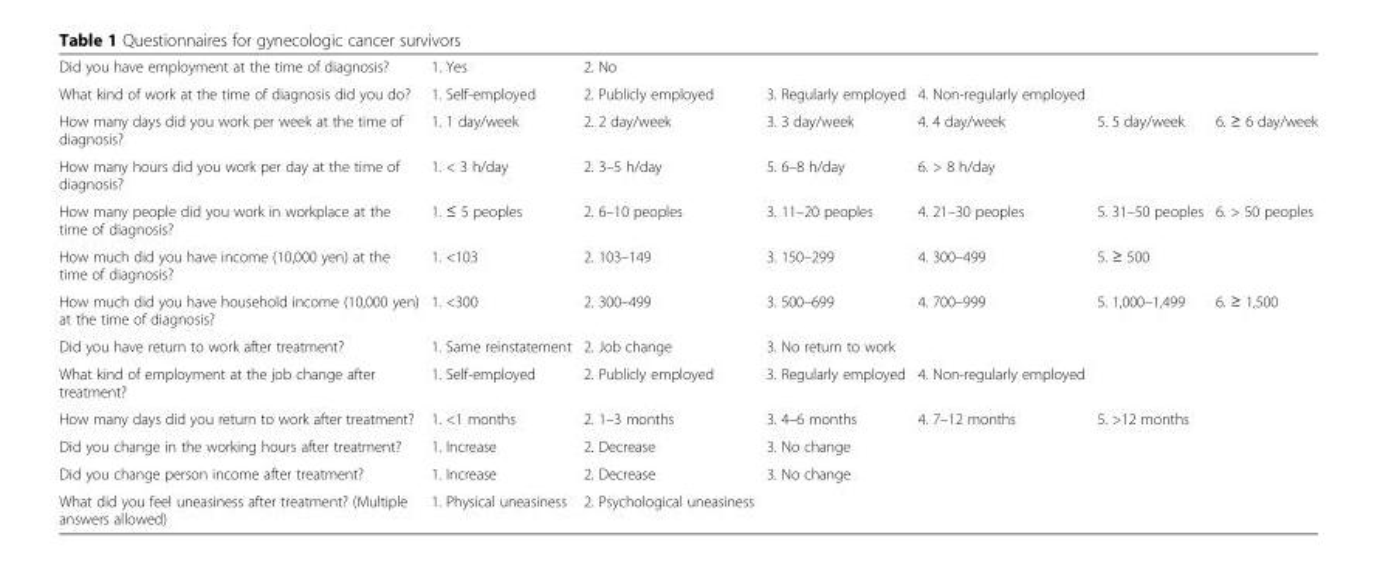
<table><tbody><tr><td>Did you have employment at the time of diagnosis?</td><td>1. Yes</td><td>2. No</td><td></td><td></td><td></td><td></td></tr><tr><td>What kind of work at the time of diagnosis did you do?</td><td>1. Self-employed</td><td>2. Publicly employed</td><td>3. Regularly employed</td><td>4. Non-regularly employed</td><td></td><td></td></tr><tr><td>How many days did you work per week at the time of diagnosis?</td><td>1. 1 day/week</td><td>2. 2 day/week</td><td>3. 3 day/week</td><td>4. 4 day/week</td><td>5. 5 day/week</td><td>6. ≥ 6 day/week</td></tr><tr><td>How many hours did you work per day at the time of diagnosis?</td><td>1. &lt; 3 h/day</td><td>2. 3–5 h/day</td><td>5. 6–8 h/day</td><td>6. &gt; 8 h/day</td><td></td><td></td></tr><tr><td>How many people did you work in workplace at the time of diagnosis?</td><td>1. ≤ 5 peoples</td><td>2. 6–10 peoples</td><td>3. 11–20 peoples</td><td>4. 21–30 peoples</td><td>5. 31–50 peoples</td><td>6. &gt; 50 peoples</td></tr><tr><td>How much did you have income (10,000 yen) at the time of diagnosis?</td><td>1. &lt;103</td><td>2. 103–149</td><td>3. 150–299</td><td>4. 300–499</td><td>5. ≥ 500</td><td></td></tr><tr><td>How much did you have household income (10,000 yen) at the time of diagnosis?</td><td>1. &lt;300</td><td>2. 300–499</td><td>3. 500–699</td><td>4. 700–999</td><td>5. 1,000–1,499</td><td>6. ≥ 1,500</td></tr><tr><td>Did you have return to work after treatment?</td><td>1. Same reinstatement</td><td>2. Job change</td><td>3. No return to work</td><td></td><td></td><td></td></tr><tr><td>What kind of employment at the job change after treatment?</td><td>1. Self-employed</td><td>2. Publicly employed</td><td>3. Regularly employed</td><td>4. Non-regularly employed</td><td></td><td></td></tr><tr><td>How many days did you return to work after treatment?</td><td>1. &lt;1 months</td><td>2. 1–3 months</td><td>3. 4–6 months</td><td>4. 7–12 months</td><td>5. &gt;12 months</td><td></td></tr><tr><td>Did you change in the working hours after treatment?</td><td>1. Increase</td><td>2. Decrease</td><td>3. No change</td><td></td><td></td><td></td></tr><tr><td>Did you change person income after treatment?</td><td>1. Increase</td><td>2. Decrease</td><td>3. No change</td><td></td><td></td><td></td></tr><tr><td>What did you feel uneasiness after treatment? (Multiple answers allowed)</td><td>1. Physical uneasiness</td><td>2. Psychological uneasiness</td><td></td><td></td><td></td><td></td></tr></tbody></table>